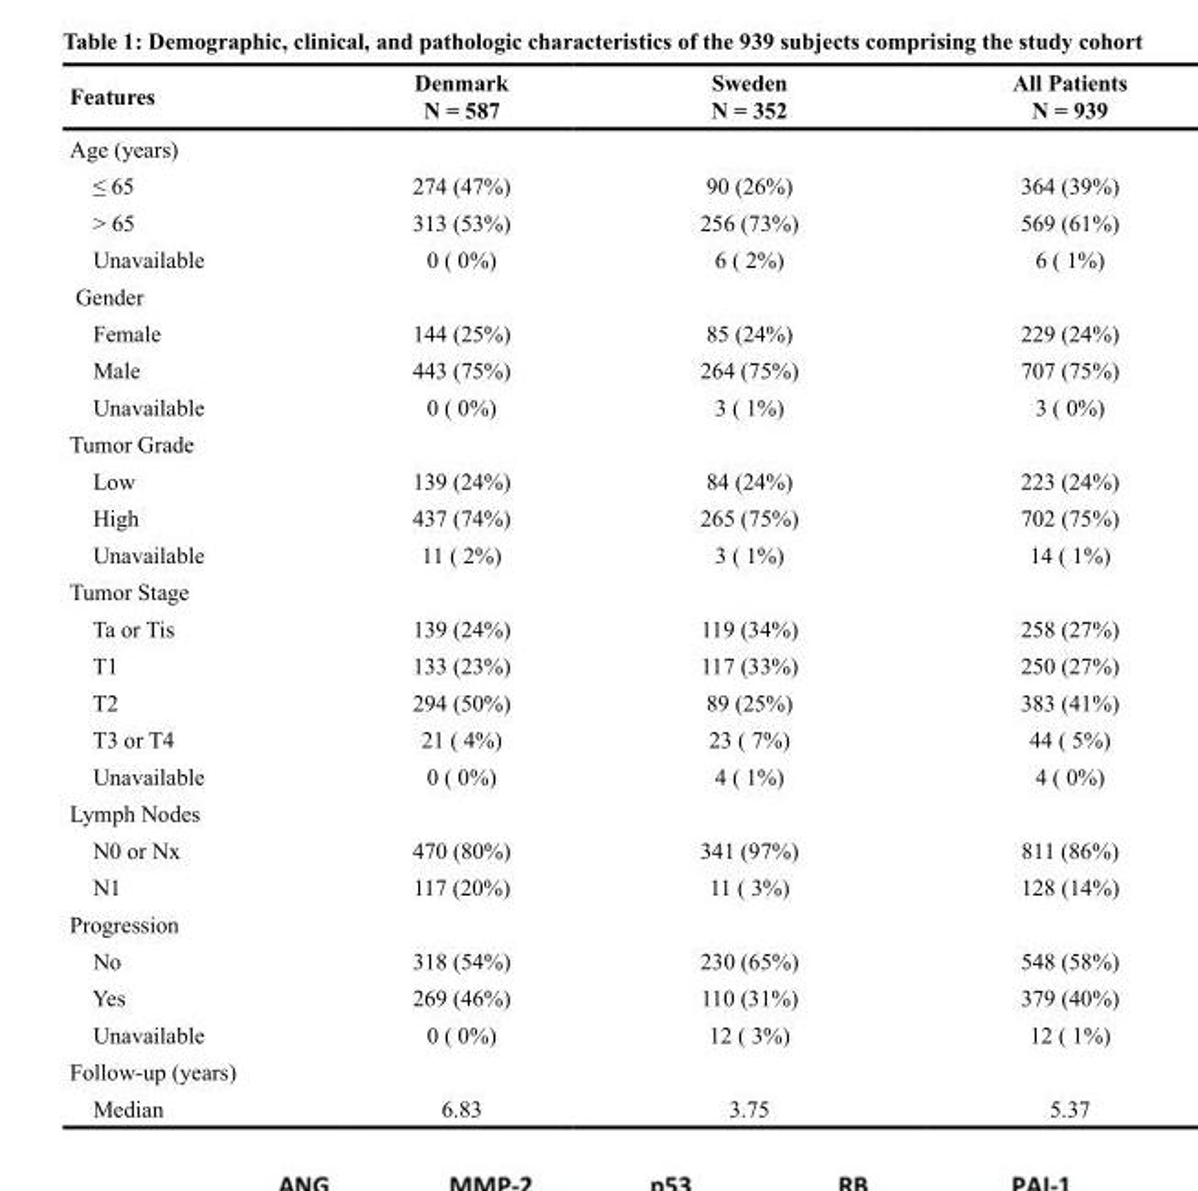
<table><thead><tr><td>Features</td><td>Denmark N = 587</td><td>Sweden N = 352</td><td>All Patients N = 939</td></tr></thead><tbody><tr><td colspan="4">Age (years)</td></tr><tr><td>≤ 65</td><td>274 (47%)</td><td>90 (26%)</td><td>364 (39%)</td></tr><tr><td>&gt; 65</td><td>313 (53%)</td><td>256 (73%)</td><td>569 (61%)</td></tr><tr><td>Unavailable</td><td>0 ( 0%)</td><td>6 ( 2%)</td><td>6 ( 1%)</td></tr><tr><td colspan="4">Gender</td></tr><tr><td>Female</td><td>144 (25%)</td><td>85 (24%)</td><td>229 (24%)</td></tr><tr><td>Male</td><td>443 (75%)</td><td>264 (75%)</td><td>707 (75%)</td></tr><tr><td>Unavailable</td><td>0 ( 0%)</td><td>3 ( 1%)</td><td>3 ( 0%)</td></tr><tr><td colspan="4">Tumor Grade</td></tr><tr><td>Low</td><td>139 (24%)</td><td>84 (24%)</td><td>223 (24%)</td></tr><tr><td>High</td><td>437 (74%)</td><td>265 (75%)</td><td>702 (75%)</td></tr><tr><td>Unavailable</td><td>11 ( 2%)</td><td>3 ( 1%)</td><td>14 ( 1%)</td></tr><tr><td colspan="4">Tumor Stage</td></tr><tr><td>Ta or Tis</td><td>139 (24%)</td><td>119 (34%)</td><td>258 (27%)</td></tr><tr><td>T1</td><td>133 (23%)</td><td>117 (33%)</td><td>250 (27%)</td></tr><tr><td>T2</td><td>294 (50%)</td><td>89 (25%)</td><td>383 (41%)</td></tr><tr><td>T3 or T4</td><td>21 ( 4%)</td><td>23 ( 7%)</td><td>44 ( 5%)</td></tr><tr><td>Unavailable</td><td>0 ( 0%)</td><td>4 ( 1%)</td><td>4 ( 0%)</td></tr><tr><td colspan="4">Lymph Nodes</td></tr><tr><td>N0 or Nx</td><td>470 (80%)</td><td>341 (97%)</td><td>811 (86%)</td></tr><tr><td>N1</td><td>117 (20%)</td><td>11 ( 3%)</td><td>128 (14%)</td></tr><tr><td colspan="4">Progression</td></tr><tr><td>No</td><td>318 (54%)</td><td>230 (65%)</td><td>548 (58%)</td></tr><tr><td>Yes</td><td>269 (46%)</td><td>110 (31%)</td><td>379 (40%)</td></tr><tr><td>Unavailable</td><td>0 ( 0%)</td><td>12 ( 3%)</td><td>12 ( 1%)</td></tr><tr><td colspan="4">Follow-up (years)</td></tr><tr><td>Median</td><td>6.83</td><td>3.75</td><td>5.37</td></tr></tbody></table>